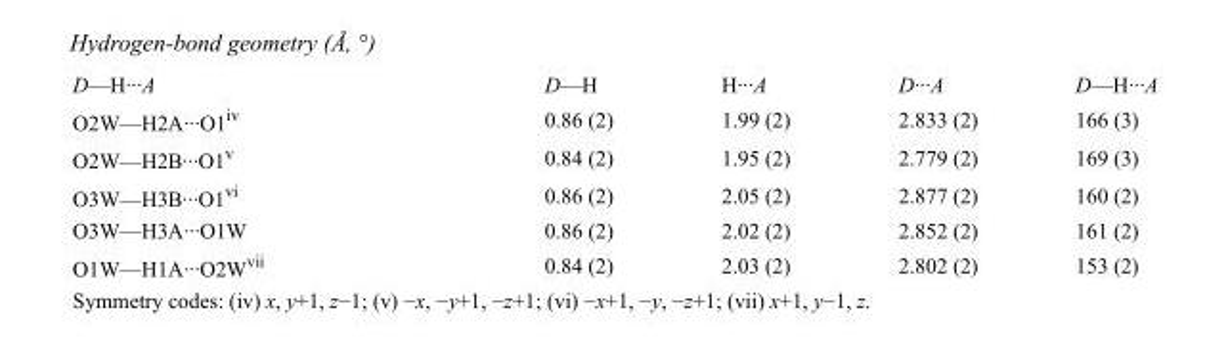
<table><tbody><tr><td>D—H···A</td><td>D—H</td><td>H···A</td><td>D···A</td><td>D—H···A</td></tr><tr><td>O2W—H2A···O1<sup>iv</sup></td><td>0.86 (2)</td><td>1.99 (2)</td><td>2.833 (2)</td><td>166 (3)</td></tr><tr><td>O2W—H2B···O1<sup>v</sup></td><td>0.84 (2)</td><td>1.95 (2)</td><td>2.779 (2)</td><td>169 (3)</td></tr><tr><td>O3W—H3B···O1<sup>vi</sup></td><td>0.86 (2)</td><td>2.05 (2)</td><td>2.877 (2)</td><td>160 (2)</td></tr><tr><td>O3W—H3A···O1W</td><td>0.86 (2)</td><td>2.02 (2)</td><td>2.852 (2)</td><td>161 (2)</td></tr><tr><td>O1W—H1A···O2W<sup>vii</sup></td><td>0.84 (2)</td><td>2.03 (2)</td><td>2.802 (2)</td><td>153 (2)</td></tr></tbody></table>